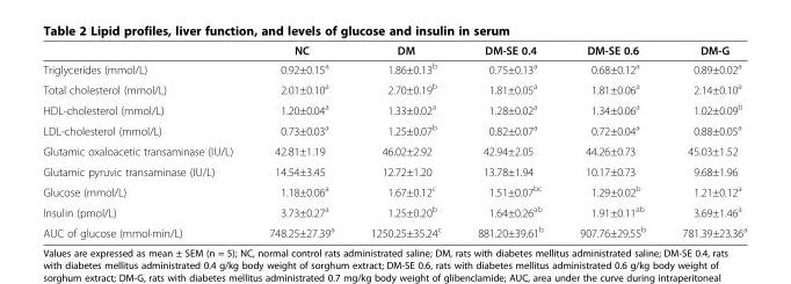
<table><thead><tr><td></td><td>NC</td><td>DM</td><td>DM-SE 0.4</td><td>DM-SE 0.6</td><td>DM-G</td></tr></thead><tbody><tr><td>Triglycerides (mmol/L)</td><td>0.92±0.15<sup>a</sup></td><td>1.86±0.13<sup>b</sup></td><td>0.75±0.13<sup>a</sup></td><td>0.68±0.12<sup>a</sup></td><td>0.89±0.02<sup>a</sup></td></tr><tr><td>Total cholesterol (mmol/L)</td><td>2.01±0.10<sup>a</sup></td><td>2.70±0.19<sup>b</sup></td><td>1.81±0.05<sup>a</sup></td><td>1.81±0.06<sup>a</sup></td><td>2.14±0.10<sup>a</sup></td></tr><tr><td>HDL-cholesterol (mmol/L)</td><td>1.20±0.04<sup>a</sup></td><td>1.33±0.02<sup>a</sup></td><td>1.28±0.02<sup>a</sup></td><td>1.34±0.06<sup>a</sup></td><td>1.02±0.09<sup>b</sup></td></tr><tr><td>LDL-cholesterol (mmol/L)</td><td>0.73±0.03<sup>a</sup></td><td>1.25±0.07<sup>b</sup></td><td>0.82±0.07<sup>a</sup></td><td>0.72±0.04<sup>a</sup></td><td>0.88±0.05<sup>a</sup></td></tr><tr><td>Glutamic oxaloacetic transaminase (IU/L)</td><td>42.81±1.19</td><td>46.02±2.92</td><td>42.94±2.05</td><td>44.26±0.73</td><td>45.03±1.52</td></tr><tr><td>Glutamic pyruvic transaminase (IU/L)</td><td>14.54±3.45</td><td>12.72±1.20</td><td>13.78±1.94</td><td>10.17±0.73</td><td>9.68±1.96</td></tr><tr><td>Glucose (mmol/L)</td><td>1.18±0.06<sup>a</sup></td><td>1.67±0.12<sup>c</sup></td><td>1.51±0.07<sup>bc</sup></td><td>1.29±0.02<sup>b</sup></td><td>1.21±0.12<sup>a</sup></td></tr><tr><td>Insulin (pmol/L)</td><td>3.73±0.27<sup>a</sup></td><td>1.25±0.20<sup>b</sup></td><td>1.64±0.26<sup>ab</sup></td><td>1.91±0.11<sup>ab</sup></td><td>3.69±1.46<sup>a</sup></td></tr><tr><td>AUC of glucose (mmol·min/L)</td><td>748.25±27.39<sup>a</sup></td><td>1250.25±35.24<sup>c</sup></td><td>881.20±39.61<sup>b</sup></td><td>907.76±29.55<sup>b</sup></td><td>781.39±23.36<sup>a</sup></td></tr></tbody></table>